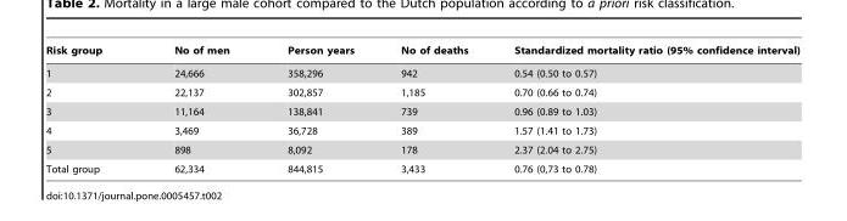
<table><thead><tr><td>Risk group</td><td>No of men</td><td>Person years</td><td>No of deaths</td><td>Standardized mortality ratio (95% confidence interval)</td></tr></thead><tbody><tr><td>1</td><td>24,666</td><td>358,296</td><td>942</td><td>0.54 (0.50 to 0.57)</td></tr><tr><td>2</td><td>22,137</td><td>302,857</td><td>1,185</td><td>0.70 (0.66 to 0.74)</td></tr><tr><td>3</td><td>11,164</td><td>138,841</td><td>739</td><td>0.96 (0.89 to 1.03)</td></tr><tr><td>4</td><td>3,469</td><td>36,728</td><td>389</td><td>1.57 (1.41 to 1.73)</td></tr><tr><td>5</td><td>898</td><td>8,092</td><td>178</td><td>2.37 (2.04 to 2.75)</td></tr><tr><td>Total group</td><td>62,334</td><td>844,815</td><td>3,433</td><td>0.76 (0,73 to 0.78)</td></tr></tbody></table>